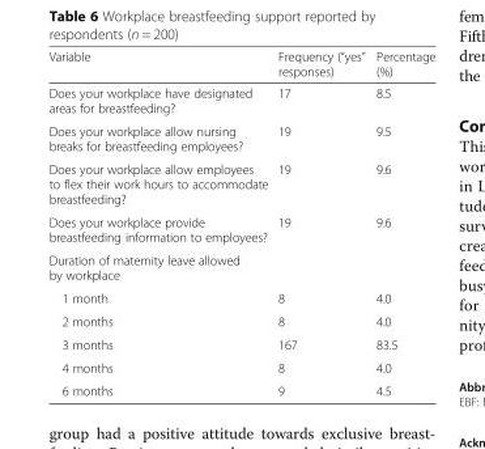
<table><thead><tr><td>Variable</td><td>Frequency (“yes” responses)</td><td>Percentage (%)</td></tr></thead><tbody><tr><td>Does your workplace have designated areas for breastfeeding?</td><td>17</td><td>8.5</td></tr><tr><td>Does your workplace allow nursing breaks for breastfeeding employees?</td><td>19</td><td>9.5</td></tr><tr><td>Does your workplace allow employees to flex their work hours to accommodate breastfeeding?</td><td>19</td><td>9.6</td></tr><tr><td>Does your workplace provide breastfeeding information to employees?</td><td>19</td><td>9.6</td></tr><tr><td colspan="3">Duration of maternity leave allowed by workplace</td></tr><tr><td>1 month</td><td>8</td><td>4.0</td></tr><tr><td>2 months</td><td>8</td><td>4.0</td></tr><tr><td>3 months</td><td>167</td><td>83.5</td></tr><tr><td>4 months</td><td>8</td><td>4.0</td></tr><tr><td>6 months</td><td>9</td><td>4.5</td></tr></tbody></table>